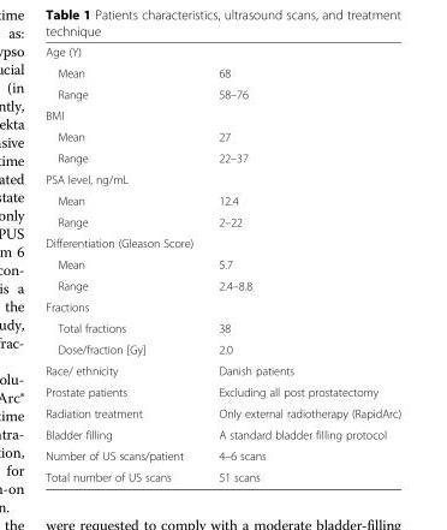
<table><tbody><tr><td colspan="2">Age (Y)</td></tr><tr><td>Mean</td><td>68</td></tr><tr><td>Range</td><td>58–76</td></tr><tr><td colspan="2">BMI</td></tr><tr><td>Mean</td><td>27</td></tr><tr><td>Range</td><td>22–37</td></tr><tr><td colspan="2">PSA level, ng/mL</td></tr><tr><td>Mean</td><td>12.4</td></tr><tr><td>Range</td><td>2–22</td></tr><tr><td colspan="2">Differentiation (Gleason Score)</td></tr><tr><td>Mean</td><td>5.7</td></tr><tr><td>Range</td><td>2.4–8.8</td></tr><tr><td colspan="2">Fractions</td></tr><tr><td>Total fractions</td><td>38</td></tr><tr><td>Dose/fraction [Gy]</td><td>2.0</td></tr><tr><td>Race/ ethnicity</td><td>Danish patients</td></tr><tr><td>Prostate patients</td><td>Excluding all post prostatectomy</td></tr><tr><td>Radiation treatment</td><td>Only external radiotherapy (RapidArc)</td></tr><tr><td>Bladder filling</td><td>A standard bladder filling protocol</td></tr><tr><td>Number of US scans/patient</td><td>4–6 scans</td></tr><tr><td>Total number of US scans</td><td>51 scans</td></tr></tbody></table>